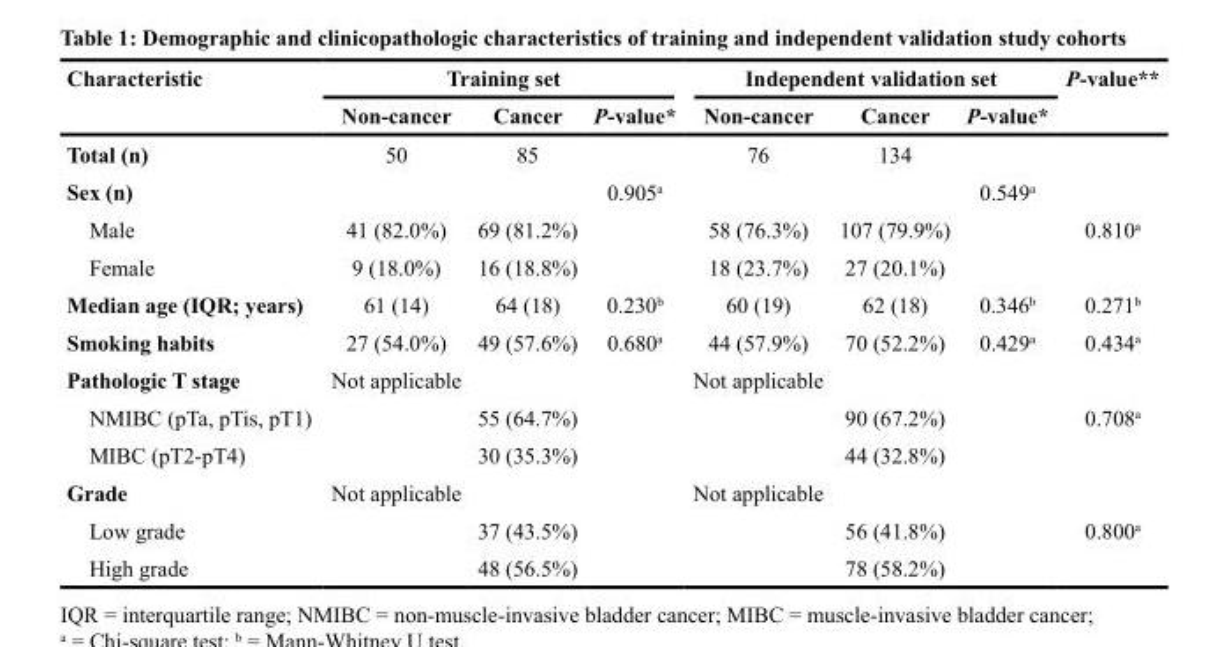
<table><thead><tr><td rowspan="2">Characteristic</td><td colspan="3">Training set</td><td colspan="3">Independent validation set</td><td rowspan="2">P-value**</td></tr><tr><td>Non-cancer</td><td>Cancer</td><td>P-value*</td><td>Non-cancer</td><td>Cancer</td><td>P-value*</td></tr></thead><tbody><tr><td>Total (n)</td><td>50</td><td>85</td><td></td><td>76</td><td>134</td><td></td><td></td></tr><tr><td>Sex (n)</td><td></td><td></td><td>0.905<sup>a</sup></td><td></td><td></td><td>0.549<sup>a</sup></td><td></td></tr><tr><td>Male</td><td>41 (82.0%)</td><td>69 (81.2%)</td><td></td><td>58 (76.3%)</td><td>107 (79.9%)</td><td></td><td>0.810<sup>a</sup></td></tr><tr><td>Female</td><td>9 (18.0%)</td><td>16 (18.8%)</td><td></td><td>18 (23.7%)</td><td>27 (20.1%)</td><td></td><td></td></tr><tr><td>Median age (IQR; years)</td><td>61 (14)</td><td>64 (18)</td><td>0.230<sup>b</sup></td><td>60 (19)</td><td>62 (18)</td><td>0.346<sup>b</sup></td><td>0.271<sup>b</sup></td></tr><tr><td>Smoking habits</td><td>27 (54.0%)</td><td>49 (57.6%)</td><td>0.680<sup>a</sup></td><td>44 (57.9%)</td><td>70 (52.2%)</td><td>0.429<sup>a</sup></td><td>0.434<sup>a</sup></td></tr><tr><td>Pathologic T stage</td><td>Not applicable</td><td></td><td></td><td>Not applicable</td><td></td><td></td><td></td></tr><tr><td>NMIBC (pTa, pTis, pT1)</td><td></td><td>55 (64.7%)</td><td></td><td></td><td>90 (67.2%)</td><td></td><td>0.708<sup>a</sup></td></tr><tr><td>MIBC (pT2-pT4)</td><td></td><td>30 (35.3%)</td><td></td><td></td><td>44 (32.8%)</td><td></td><td></td></tr><tr><td>Grade</td><td>Not applicable</td><td></td><td></td><td>Not applicable</td><td></td><td></td><td></td></tr><tr><td>Low grade</td><td></td><td>37 (43.5%)</td><td></td><td></td><td>56 (41.8%)</td><td></td><td>0.800<sup>a</sup></td></tr><tr><td>High grade</td><td></td><td>48 (56.5%)</td><td></td><td></td><td>78 (58.2%)</td><td></td><td></td></tr></tbody></table>